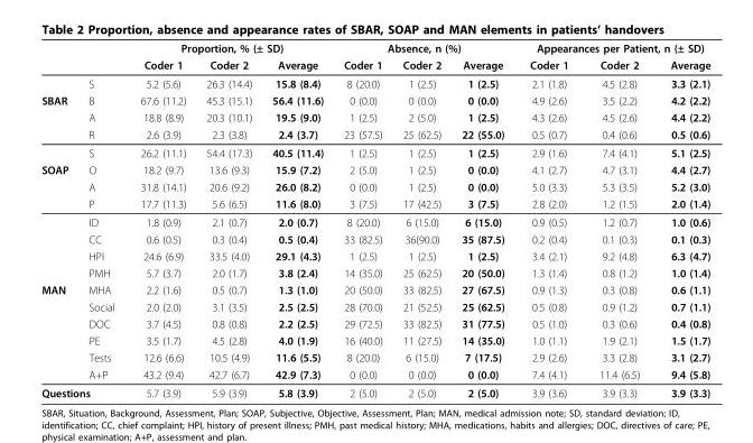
<table><thead><tr><td rowspan="2"></td><td rowspan="2"></td><td colspan="3">Proportion, % (± SD)</td><td colspan="3">Absence, n (%)</td><td colspan="3">Appearances per Patient, n (± SD)</td></tr><tr><td>Coder 1</td><td>Coder 2</td><td>Average</td><td>Coder 1</td><td>Coder 2</td><td>Average</td><td>Coder 1</td><td>Coder 2</td><td>Average</td></tr></thead><tbody><tr><td></td><td>S</td><td>5.2 (5.6)</td><td>26.3 (14.4)</td><td>15.8 (8.4)</td><td>8 (20.0)</td><td>1 (2.5)</td><td>1 (2.5)</td><td>2.1 (1.8)</td><td>4.5 (2.8)</td><td>3.3 (2.1)</td></tr><tr><td rowspan="4">SBAR</td><td>B</td><td>67.6 (11.2)</td><td>45.3 (15.1)</td><td>56.4 (11.6)</td><td>0 (0.0)</td><td>0 (0.0)</td><td>0 (0.0)</td><td>4.9 (2.6)</td><td>3.5 (2.2)</td><td>4.2 (2.2)</td></tr><tr><td>A</td><td>18.8 (8.9)</td><td>20.3 (10.1)</td><td>19.5 (9.0)</td><td>1 (2.5)</td><td>2 (5.0)</td><td>1 (2.5)</td><td>4.3 (2.6)</td><td>4.5 (2.6)</td><td>4.4 (2.2)</td></tr><tr><td>R</td><td>2.6 (3.9)</td><td>2.3 (3.8)</td><td>2.4 (3.7)</td><td>23 (57.5)</td><td>25 (62.5)</td><td>22 (55.0)</td><td>0.5 (0.7)</td><td>0.4 (0.6)</td><td>0.5 (0.6)</td></tr><tr><td>S</td><td>26.2 (11.1)</td><td>54.4 (17.3)</td><td>40.5 (11.4)</td><td>1 (2.5)</td><td>1 (2.5)</td><td>1 (2.5)</td><td>2.9 (1.6)</td><td>7.4 (4.1)</td><td>5.1 (2.5)</td></tr><tr><td rowspan="7">SOAP</td><td>O</td><td>18.2 (9.7)</td><td>13.6 (9.3)</td><td>15.9 (7.2)</td><td>2 (5.0)</td><td>1 (2.5)</td><td>0 (0.0)</td><td>4.1 (2.7)</td><td>4.7 (3.1)</td><td>4.4 (2.7)</td></tr><tr><td>A</td><td>31.8 (14.1)</td><td>20.6 (9.2)</td><td>26.0 (8.2)</td><td>0 (0.0)</td><td>1 (2.5)</td><td>0 (0.0)</td><td>5.0 (3.3)</td><td>5.3 (3.5)</td><td>5.2 (3.0)</td></tr><tr><td>P</td><td>17.7 (11.3)</td><td>5.6 (6.5)</td><td>11.6 (8.0)</td><td>3 (7.5)</td><td>17 (42.5)</td><td>3 (7.5)</td><td>2.8 (2.0)</td><td>1.2 (1.5)</td><td>2.0 (1.4)</td></tr><tr><td>ID</td><td>1.8 (0.9)</td><td>2.1 (0.7)</td><td>2.0 (0.7)</td><td>8 (20.0)</td><td>6 (15.0)</td><td>6 (15.0)</td><td>0.9 (0.5)</td><td>1.2 (0.7)</td><td>1.0 (0.6)</td></tr><tr><td>CC</td><td>0.6 (0.5)</td><td>0.3 (0.4)</td><td>0.5 (0.4)</td><td>33 (82.5)</td><td>36(90.0)</td><td>35 (87.5)</td><td>0.2 (0.4)</td><td>0.1 (0.3)</td><td>0.1 (0.3)</td></tr><tr><td>HPI</td><td>24.6 (6.9)</td><td>33.5 (4.0)</td><td>29.1 (4.3)</td><td>1 (2.5)</td><td>1 (2.5)</td><td>1 (2.5)</td><td>3.4 (2.1)</td><td>9.2 (4.8)</td><td>6.3 (4.7)</td></tr><tr><td>PMH</td><td>5.7 (3.7)</td><td>2.0 (1.7)</td><td>3.8 (2.4)</td><td>14 (35.0)</td><td>25 (62.5)</td><td>20 (50.0)</td><td>1.3 (1.4)</td><td>0.8 (1.2)</td><td>1.0 (1.4)</td></tr><tr><td rowspan="6">MAN</td><td>MHA</td><td>2.2 (1.6)</td><td>0.5 (0.7)</td><td>1.3 (1.0)</td><td>20 (50.0)</td><td>33 (82.5)</td><td>27 (67.5)</td><td>0.9 (1.3)</td><td>0.3 (0.8)</td><td>0.6 (1.1)</td></tr><tr><td>Social</td><td>2.0 (2.0)</td><td>3.1 (3.5)</td><td>2.5 (2.5)</td><td>28 (70.0)</td><td>21 (52.5)</td><td>25 (62.5)</td><td>0.5 (0.8)</td><td>0.9 (1.2)</td><td>0.7 (1.1)</td></tr><tr><td>DOC</td><td>3.7 (4.5)</td><td>0.8 (0.8)</td><td>2.2 (2.5)</td><td>29 (72.5)</td><td>33 (82.5)</td><td>31 (77.5)</td><td>0.5 (1.0)</td><td>0.3 (0.6)</td><td>0.4 (0.8)</td></tr><tr><td>PE</td><td>3.5 (1.7)</td><td>4.5 (2.8)</td><td>4.0 (1.9)</td><td>16 (40.0)</td><td>11 (27.5)</td><td>14 (35.0)</td><td>1.0 (1.1)</td><td>1.9 (2.1)</td><td>1.5 (1.7)</td></tr><tr><td>Tests</td><td>12.6 (6.6)</td><td>10.5 (4.9)</td><td>11.6 (5.5)</td><td>8 (20.0)</td><td>6 (15.0)</td><td>7 (17.5)</td><td>2.9 (2.6)</td><td>3.3 (2.8)</td><td>3.1 (2.7)</td></tr><tr><td>A+P</td><td>43.2 (9.4)</td><td>42.7 (6.7)</td><td>42.9 (7.3)</td><td>0 (0.0)</td><td>0 (0.0)</td><td>0 (0.0)</td><td>7.4 (4.1)</td><td>11.4 (6.5)</td><td>9.4 (5.8)</td></tr><tr><td colspan="2">Questions</td><td>5.7 (3.9)</td><td>5.9 (3.9)</td><td>5.8 (3.9)</td><td>2 (5.0)</td><td>2 (5.0)</td><td>2 (5.0)</td><td>3.9 (3.6)</td><td>3.9 (3.3)</td><td>3.9 (3.3)</td></tr></tbody></table>